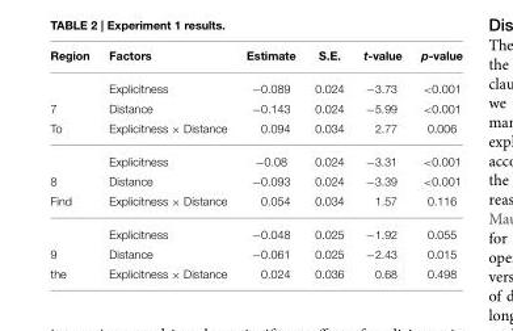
<table><thead><tr><td>Region</td><td>Factors</td><td>Estimate</td><td>S.E.</td><td>t-value</td><td>p-value</td></tr></thead><tbody><tr><td></td><td>Explicitness</td><td>−0.089</td><td>0.024</td><td>−3.73</td><td>&lt;0.001</td></tr><tr><td>7</td><td>Distance</td><td>−0.143</td><td>0.024</td><td>−5.99</td><td>&lt;0.001</td></tr><tr><td rowspan="2">To</td><td>Explicitness × Distance</td><td>0.094</td><td>0.034</td><td>2.77</td><td>0.006</td></tr><tr><td>Explicitness</td><td>−0.08</td><td>0.024</td><td>−3.31</td><td>&lt;0.001</td></tr><tr><td>8</td><td>Distance</td><td>−0.093</td><td>0.024</td><td>−3.39</td><td>&lt;0.001</td></tr><tr><td rowspan="2">Find</td><td>Explicitness × Distance</td><td>0.054</td><td>0.034</td><td>1.57</td><td>0.116</td></tr><tr><td>Explicitness</td><td>−0.048</td><td>0.025</td><td>−1.92</td><td>0.055</td></tr><tr><td>9</td><td>Distance</td><td>−0.061</td><td>0.025</td><td>−2.43</td><td>0.015</td></tr><tr><td>the</td><td>Explicitness × Distance</td><td>0.024</td><td>0.036</td><td>0.68</td><td>0.498</td></tr></tbody></table>